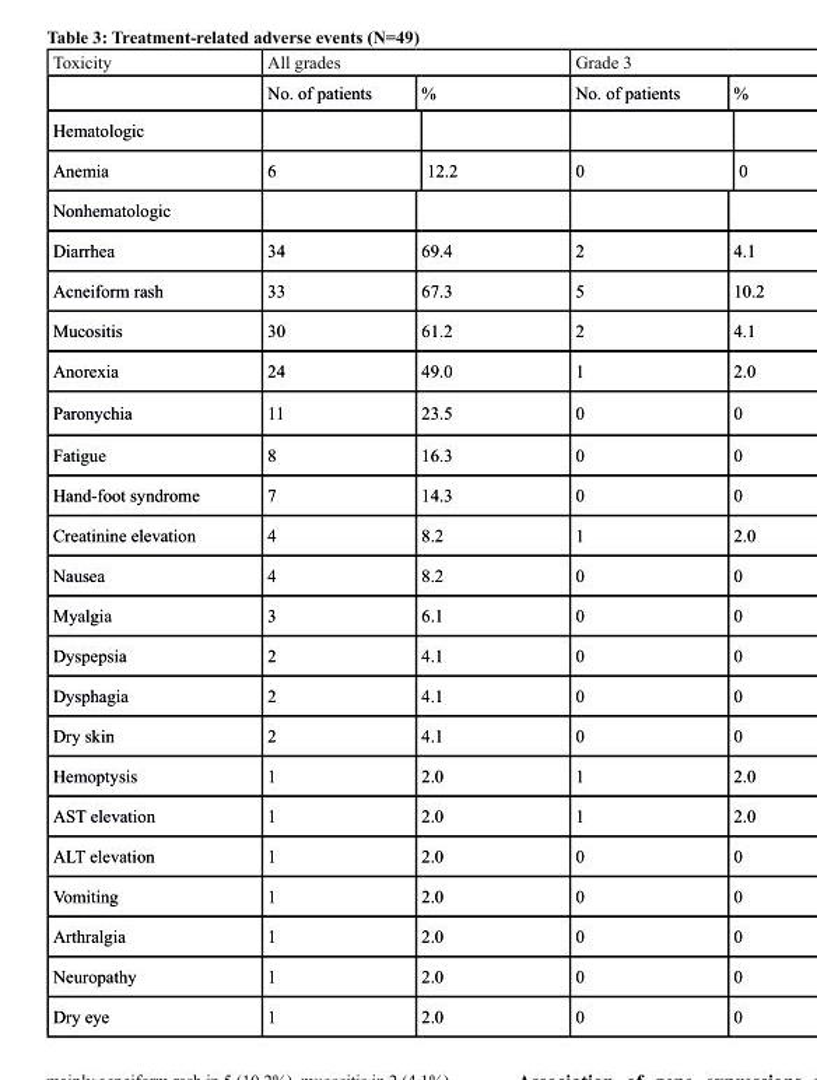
<table><thead><tr><td rowspan="2">Toxicity</td><td colspan="2">All grades</td><td colspan="2">Grade 3</td></tr><tr><td>No. of patients</td><td>%</td><td>No. of patients</td><td>%</td></tr></thead><tbody><tr><td colspan="5">Hematologic</td></tr><tr><td>Anemia</td><td>6</td><td>12.2</td><td>0</td><td>0</td></tr><tr><td colspan="5">Nonhematologic</td></tr><tr><td>Diarrhea</td><td>34</td><td>69.4</td><td>2</td><td>4.1</td></tr><tr><td>Acneiform rash</td><td>33</td><td>67.3</td><td>5</td><td>10.2</td></tr><tr><td>Mucositis</td><td>30</td><td>61.2</td><td>2</td><td>4.1</td></tr><tr><td>Anorexia</td><td>24</td><td>49.0</td><td>1</td><td>2.0</td></tr><tr><td>Paronychia</td><td>11</td><td>23.5</td><td>0</td><td>0</td></tr><tr><td>Fatigue</td><td>8</td><td>16.3</td><td>0</td><td>0</td></tr><tr><td>Hand-foot syndrome</td><td>7</td><td>14.3</td><td>0</td><td>0</td></tr><tr><td>Creatinine elevation</td><td>4</td><td>8.2</td><td>1</td><td>2.0</td></tr><tr><td>Nausea</td><td>4</td><td>8.2</td><td>0</td><td>0</td></tr><tr><td>Myalgia</td><td>3</td><td>6.1</td><td>0</td><td>0</td></tr><tr><td>Dyspepsia</td><td>2</td><td>4.1</td><td>0</td><td>0</td></tr><tr><td>Dysphagia</td><td>2</td><td>4.1</td><td>0</td><td>0</td></tr><tr><td>Dry skin</td><td>2</td><td>4.1</td><td>0</td><td>0</td></tr><tr><td>Hemoptysis</td><td>1</td><td>2.0</td><td>1</td><td>2.0</td></tr><tr><td>AST elevation</td><td>1</td><td>2.0</td><td>1</td><td>2.0</td></tr><tr><td>ALT elevation</td><td>1</td><td>2.0</td><td>0</td><td>0</td></tr><tr><td>Vomiting</td><td>1</td><td>2.0</td><td>0</td><td>0</td></tr><tr><td>Arthralgia</td><td>1</td><td>2.0</td><td>0</td><td>0</td></tr><tr><td>Neuropathy</td><td>1</td><td>2.0</td><td>0</td><td>0</td></tr><tr><td>Dry eye</td><td>1</td><td>2.0</td><td>0</td><td>0</td></tr></tbody></table>